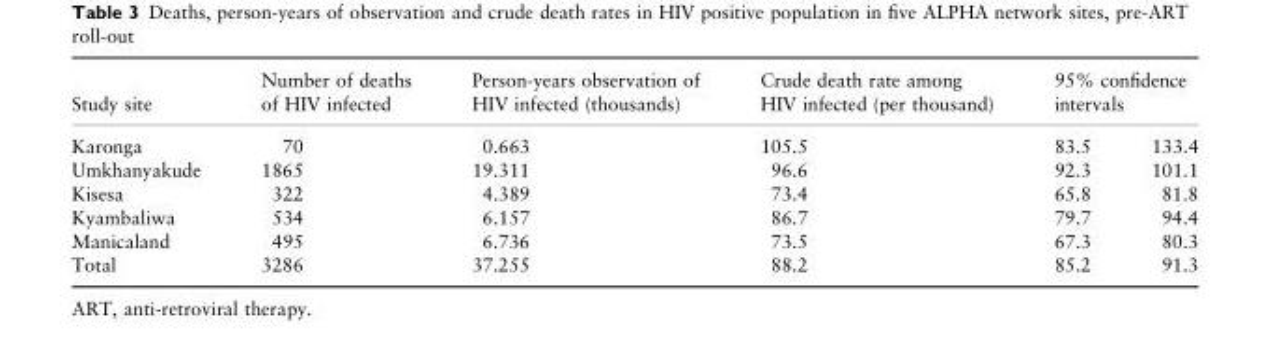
<table><thead><tr><td rowspan="2">Study site Karonga</td><td rowspan="2">Number of deaths of HIV infected 70</td><td rowspan="2">Person-years observation of HIV infected (thousands) 0.663</td><td rowspan="2">Crude death rate among HIV infected (per thousand) 105.5</td><td colspan="2">95% confidence intervals</td></tr><tr><td>83.5</td><td>133.4</td></tr></thead><tbody><tr><td>Umkhanyakude</td><td>1865</td><td>19.311</td><td>96.6</td><td>92.3</td><td>101.1</td></tr><tr><td>Kisesa</td><td>322</td><td>4.389</td><td>73.4</td><td>65.8</td><td>81.8</td></tr><tr><td>Kyambaliwa</td><td>534</td><td>6.157</td><td>86.7</td><td>79.7</td><td>94.4</td></tr><tr><td>Manicaland</td><td>495</td><td>6.736</td><td>73.5</td><td>67.3</td><td>80.3</td></tr><tr><td>Total</td><td>3286</td><td>37.255</td><td>88.2</td><td>85.2</td><td>91.3</td></tr></tbody></table>